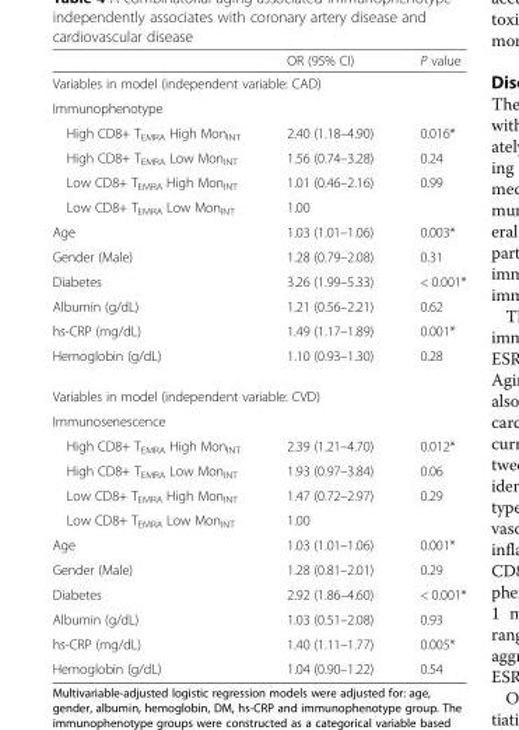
<table><thead><tr><td></td><td>OR (95% CI)</td><td>P value</td></tr></thead><tbody><tr><td colspan="3">Variables in model (independent variable: CAD)</td></tr><tr><td colspan="3">Immunophenotype</td></tr><tr><td>High CD8+ T<sub>EMRA</sub> High Mon<sub>INT</sub></td><td>2.40 (1.18–4.90)</td><td>0.016*</td></tr><tr><td>High CD8+ T<sub>EMRA</sub> Low Mon<sub>INT</sub></td><td>1.56 (0.74–3.28)</td><td>0.24</td></tr><tr><td>Low CD8+ T<sub>EMRA</sub> High Mon<sub>INT</sub></td><td>1.01 (0.46–2.16)</td><td>0.99</td></tr><tr><td>Low CD8+ T<sub>EMRA</sub> Low Mon<sub>INT</sub></td><td>1.00</td><td></td></tr><tr><td>Age</td><td>1.03 (1.01–1.06)</td><td>0.003*</td></tr><tr><td>Gender (Male)</td><td>1.28 (0.79–2.08)</td><td>0.31</td></tr><tr><td>Diabetes</td><td>3.26 (1.99–5.33)</td><td>&lt; 0.001*</td></tr><tr><td>Albumin (g/dL)</td><td>1.21 (0.56–2.21)</td><td>0.62</td></tr><tr><td>hs-CRP (mg/dL)</td><td>1.49 (1.17–1.89)</td><td>0.001*</td></tr><tr><td>Hemoglobin (g/dL)</td><td>1.10 (0.93–1.30)</td><td>0.28</td></tr><tr><td colspan="3">Variables in model (independent variable: CVD)</td></tr><tr><td colspan="3">Immunosenescence</td></tr><tr><td>High CD8+ T<sub>EMRA</sub> High Mon<sub>INT</sub></td><td>2.39 (1.21–4.70)</td><td>0.012*</td></tr><tr><td>High CD8+ T<sub>EMRA</sub> Low Mon<sub>INT</sub></td><td>1.93 (0.97–3.84)</td><td>0.06</td></tr><tr><td>Low CD8+ T<sub>EMRA</sub> High Mon<sub>INT</sub></td><td>1.47 (0.72–2.97)</td><td>0.29</td></tr><tr><td>Low CD8+ T<sub>EMRA</sub> Low Mon<sub>INT</sub></td><td>1.00</td><td></td></tr><tr><td>Age</td><td>1.03 (1.01–1.06)</td><td>0.001*</td></tr><tr><td>Gender (Male)</td><td>1.28 (0.81–2.01)</td><td>0.29</td></tr><tr><td>Diabetes</td><td>2.92 (1.86–4.60)</td><td>&lt; 0.001*</td></tr><tr><td>Albumin (g/dL)</td><td>1.03 (0.51–2.08)</td><td>0.93</td></tr><tr><td>hs-CRP (mg/dL)</td><td>1.40 (1.11–1.77)</td><td>0.005*</td></tr><tr><td>Hemoglobin (g/dL)</td><td>1.04 (0.90–1.22)</td><td>0.54</td></tr></tbody></table>